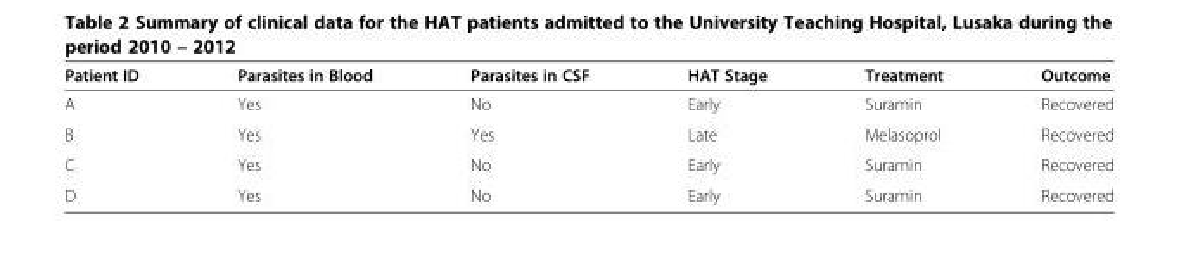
<table><thead><tr><td>Patient ID</td><td>Parasites in Blood</td><td>Parasites in CSF</td><td>HAT Stage</td><td>Treatment</td><td>Outcome</td></tr></thead><tbody><tr><td>A</td><td>Yes</td><td>No</td><td>Early</td><td>Suramin</td><td>Recovered</td></tr><tr><td>B</td><td>Yes</td><td>Yes</td><td>Late</td><td>Melasoprol</td><td>Recovered</td></tr><tr><td>C</td><td>Yes</td><td>No</td><td>Early</td><td>Suramin</td><td>Recovered</td></tr><tr><td>D</td><td>Yes</td><td>No</td><td>Early</td><td>Suramin</td><td>Recovered</td></tr></tbody></table>